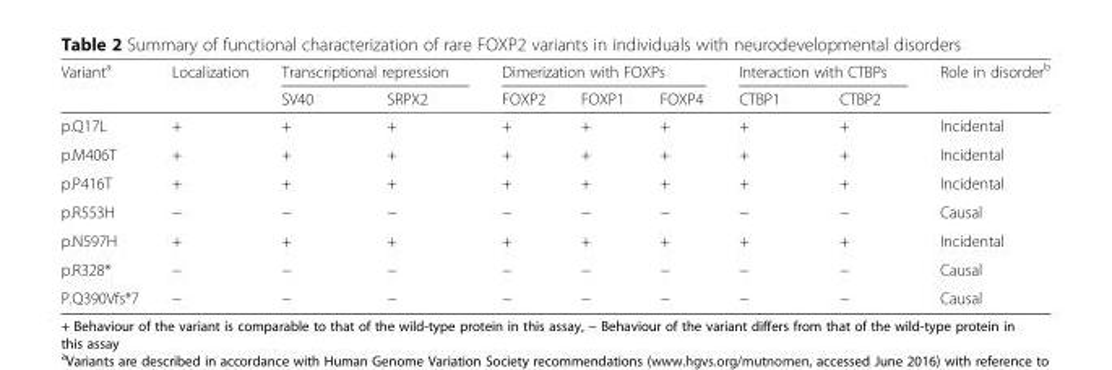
<table><thead><tr><td rowspan="2">Variant<sup>a</sup></td><td rowspan="2">Localization</td><td colspan="2">Transcriptional repression</td><td colspan="3">Dimerization with FOXPs</td><td colspan="2">Interaction with CTBPs</td><td rowspan="2">Role in disorder<sup>b</sup></td></tr><tr><td>SV40</td><td>SRPX2</td><td>FOXP2</td><td>FOXP1</td><td>FOXP4</td><td>CTBP1</td><td>CTBP2</td></tr></thead><tbody><tr><td>p.Q17L</td><td>+</td><td>+</td><td>+</td><td>+</td><td>+</td><td>+</td><td>+</td><td>+</td><td>Incidental</td></tr><tr><td>p.M406T</td><td>+</td><td>+</td><td>+</td><td>+</td><td>+</td><td>+</td><td>+</td><td>+</td><td>Incidental</td></tr><tr><td>p.P416T</td><td>+</td><td>+</td><td>+</td><td>+</td><td>+</td><td>+</td><td>+</td><td>+</td><td>Incidental</td></tr><tr><td>p.R553H</td><td>−</td><td>−</td><td>−</td><td>−</td><td>−</td><td>−</td><td>−</td><td>−</td><td>Causal</td></tr><tr><td>p.N597H</td><td>+</td><td>+</td><td>+</td><td>+</td><td>+</td><td>+</td><td>+</td><td>+</td><td>Incidental</td></tr><tr><td>p.R328*</td><td>−</td><td>−</td><td>−</td><td>−</td><td>−</td><td>−</td><td>−</td><td>−</td><td>Causal</td></tr><tr><td>P.Q390Vfs*7</td><td>−</td><td>−</td><td>−</td><td>−</td><td>−</td><td>−</td><td>−</td><td>−</td><td>Causal</td></tr></tbody></table>